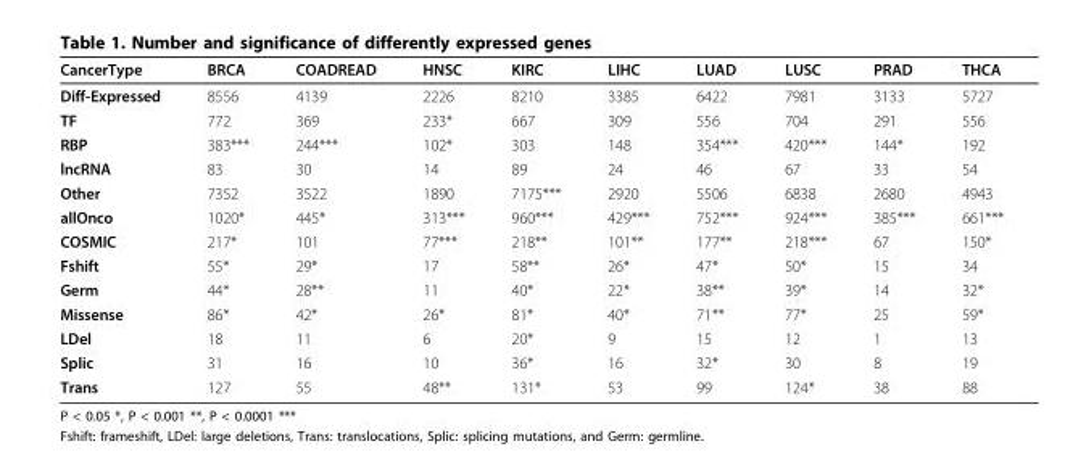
<table><thead><tr><td>CancerType</td><td>BRCA</td><td>COADREAD</td><td>HNSC</td><td>KIRC</td><td>LIHC</td><td>LUAD</td><td>LUSC</td><td>PRAD</td><td>THCA</td></tr></thead><tbody><tr><td>Diff-Expressed</td><td>8556</td><td>4139</td><td>2226</td><td>8210</td><td>3385</td><td>6422</td><td>7981</td><td>3133</td><td>5727</td></tr><tr><td>TF</td><td>772</td><td>369</td><td>233*</td><td>667</td><td>309</td><td>556</td><td>704</td><td>291</td><td>556</td></tr><tr><td>RBP</td><td>383***</td><td>244***</td><td>102*</td><td>303</td><td>148</td><td>354***</td><td>420***</td><td>144*</td><td>192</td></tr><tr><td>lncRNA</td><td>83</td><td>30</td><td>14</td><td>89</td><td>24</td><td>46</td><td>67</td><td>33</td><td>54</td></tr><tr><td>Other</td><td>7352</td><td>3522</td><td>1890</td><td>7175***</td><td>2920</td><td>5506</td><td>6838</td><td>2680</td><td>4943</td></tr><tr><td>allOnco</td><td>1020*</td><td>445*</td><td>313***</td><td>960***</td><td>429***</td><td>752***</td><td>924***</td><td>385***</td><td>661***</td></tr><tr><td>COSMIC</td><td>217*</td><td>101</td><td>77***</td><td>218**</td><td>101**</td><td>177**</td><td>218***</td><td>67</td><td>150*</td></tr><tr><td>Fshift</td><td>55*</td><td>29*</td><td>17</td><td>58**</td><td>26*</td><td>47*</td><td>50*</td><td>15</td><td>34</td></tr><tr><td>Germ</td><td>44*</td><td>28**</td><td>11</td><td>40*</td><td>22*</td><td>38**</td><td>39*</td><td>14</td><td>32*</td></tr><tr><td>Missense</td><td>86*</td><td>42*</td><td>26*</td><td>81*</td><td>40*</td><td>71**</td><td>77*</td><td>25</td><td>59*</td></tr><tr><td>LDel</td><td>18</td><td>11</td><td>6</td><td>20*</td><td>9</td><td>15</td><td>12</td><td>1</td><td>13</td></tr><tr><td>Splic</td><td>31</td><td>16</td><td>10</td><td>36*</td><td>16</td><td>32*</td><td>30</td><td>8</td><td>19</td></tr><tr><td>Trans</td><td>127</td><td>55</td><td>48**</td><td>131*</td><td>53</td><td>99</td><td>124*</td><td>38</td><td>88</td></tr></tbody></table>